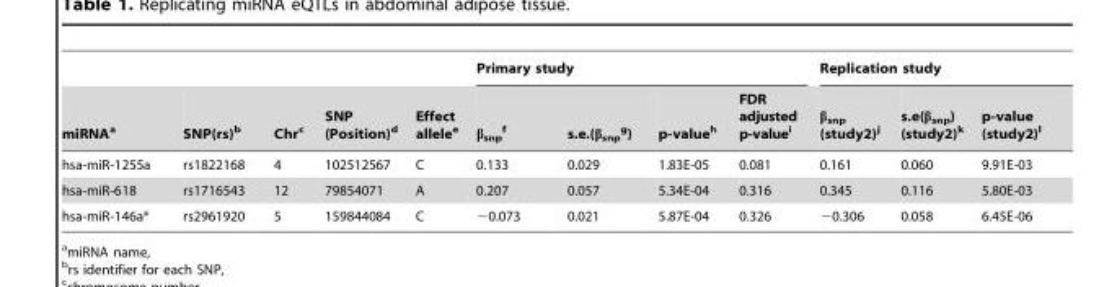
<table><thead><tr><td rowspan="2">miRNA<sup>a</sup></td><td rowspan="2">SNP(rs)<sup>b</sup></td><td rowspan="2">Chr<sup>c</sup></td><td rowspan="2">SNP (Position)<sup>d</sup></td><td rowspan="2">Effect allele<sup>e</sup></td><td colspan="4">Primary study</td><td colspan="3">Replication study</td></tr><tr><td>β<sub>snp</sub> f</td><td>s.e.(β<sub>snp</sub> g)</td><td>p-value<sup>h</sup></td><td>FDR adjusted p-value<sup>i</sup></td><td>β<sub>snp</sub> (study2)<sup>j</sup></td><td>s.e(β<sub>snp</sub>) (study2)<sup>k</sup></td><td>p-value (study2)<sup>l</sup></td></tr></thead><tbody><tr><td>hsa-miR-1255a</td><td>rs1822168</td><td>4</td><td>102512567</td><td>C</td><td>0.133</td><td>0.029</td><td>1.83E-05</td><td>0.081</td><td>0.161</td><td>0.060</td><td>9.91E-03</td></tr><tr><td>hsa-miR-618</td><td>rs1716543</td><td>12</td><td>79854071</td><td>A</td><td>0.207</td><td>0.057</td><td>5.34E-04</td><td>0.316</td><td>0.345</td><td>0.116</td><td>5.80E-03</td></tr><tr><td>hsa-miR-146a*</td><td>rs2961920</td><td>5</td><td>159844084</td><td>C</td><td>−0.073</td><td>0.021</td><td>5.87E-04</td><td>0.326</td><td>−0.306</td><td>0.058</td><td>6.45E-06</td></tr></tbody></table>